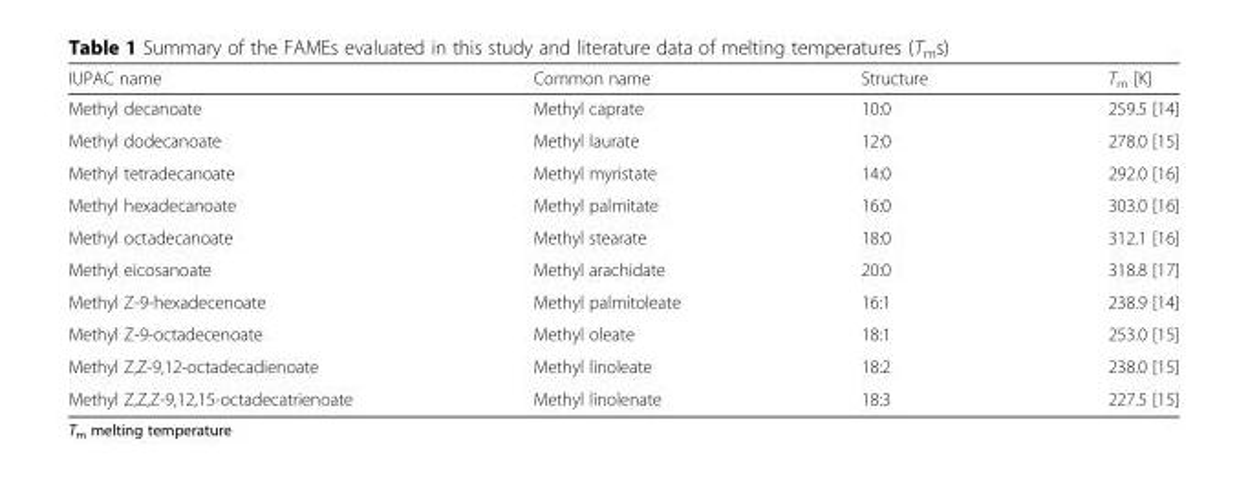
<table><thead><tr><td>IUPAC name</td><td>Common name</td><td>Structure</td><td>T<sub>m</sub> [K]</td></tr></thead><tbody><tr><td>Methyl decanoate</td><td>Methyl caprate</td><td>10:0</td><td>259.5 [14]</td></tr><tr><td>Methyl dodecanoate</td><td>Methyl laurate</td><td>12:0</td><td>278.0 [15]</td></tr><tr><td>Methyl tetradecanoate</td><td>Methyl myristate</td><td>14:0</td><td>292.0 [16]</td></tr><tr><td>Methyl hexadecanoate</td><td>Methyl palmitate</td><td>16:0</td><td>303.0 [16]</td></tr><tr><td>Methyl octadecanoate</td><td>Methyl stearate</td><td>18:0</td><td>312.1 [16]</td></tr><tr><td>Methyl eicosanoate</td><td>Methyl arachidate</td><td>20:0</td><td>318.8 [17]</td></tr><tr><td>Methyl Z-9-hexadecenoate</td><td>Methyl palmitoleate</td><td>16:1</td><td>238.9 [14]</td></tr><tr><td>Methyl Z-9-octadecenoate</td><td>Methyl oleate</td><td>18:1</td><td>253.0 [15]</td></tr><tr><td>Methyl Z,Z-9,12-octadecadienoate</td><td>Methyl linoleate</td><td>18:2</td><td>238.0 [15]</td></tr><tr><td>Methyl Z,Z,Z-9,12,15-octadecatrienoate</td><td>Methyl linolenate</td><td>18:3</td><td>227.5 [15]</td></tr></tbody></table>